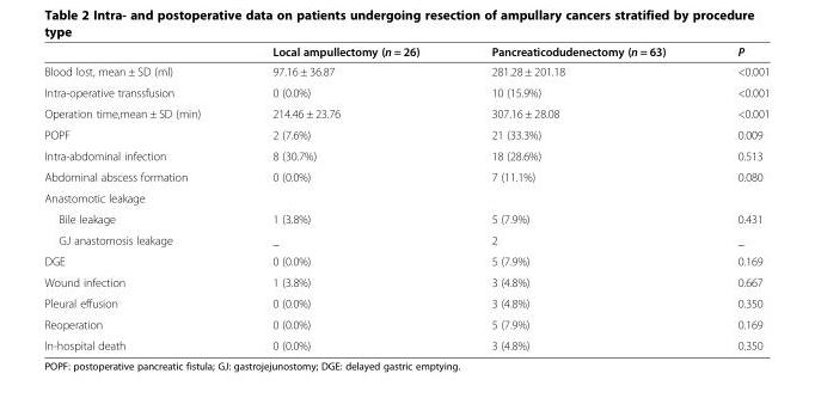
<table><thead><tr><td></td><td>Local ampullectomy (n = 26)</td><td>Pancreaticodudenectomy (n = 63)</td><td>P</td></tr></thead><tbody><tr><td>Blood lost, mean ± SD (ml)</td><td>97.16 ± 36.87</td><td>281.28 ± 201.18</td><td>&lt;0.001</td></tr><tr><td>Intra-operative transsfusion</td><td>0 (0.0%)</td><td>10 (15.9%)</td><td>&lt;0.001</td></tr><tr><td>Operation time,mean ± SD (min)</td><td>214.46 ± 23.76</td><td>307.16 ± 28.08</td><td>&lt;0.001</td></tr><tr><td>POPF</td><td>2 (7.6%)</td><td>21 (33.3%)</td><td>0.009</td></tr><tr><td>Intra-abdominal infection</td><td>8 (30.7%)</td><td>18 (28.6%)</td><td>0.513</td></tr><tr><td>Abdominal abscess formation</td><td>0 (0.0%)</td><td>7 (11.1%)</td><td>0.080</td></tr><tr><td colspan="4">Anastomotic leakage</td></tr><tr><td>Bile leakage</td><td>1 (3.8%)</td><td>5 (7.9%)</td><td>0.431</td></tr><tr><td>GJ anastomosis leakage</td><td>_</td><td>2</td><td>_</td></tr><tr><td>DGE</td><td>0 (0.0%)</td><td>5 (7.9%)</td><td>0.169</td></tr><tr><td>Wound infection</td><td>1 (3.8%)</td><td>3 (4.8%)</td><td>0.667</td></tr><tr><td>Pleural effusion</td><td>0 (0.0%)</td><td>3 (4.8%)</td><td>0.350</td></tr><tr><td>Reoperation</td><td>0 (0.0%)</td><td>5 (7.9%)</td><td>0.169</td></tr><tr><td>In-hospital death</td><td>0 (0.0%)</td><td>3 (4.8%)</td><td>0.350</td></tr></tbody></table>